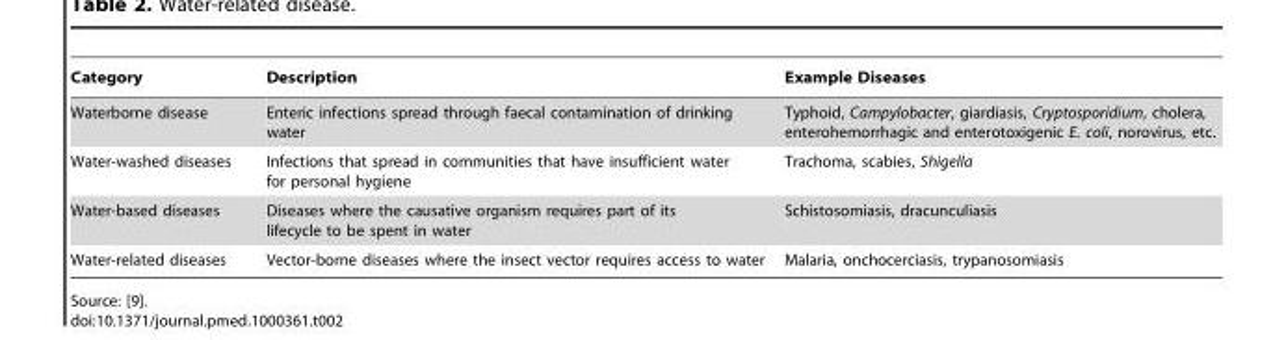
<table><thead><tr><td>Category</td><td>Description</td><td>Example Diseases</td></tr></thead><tbody><tr><td>Waterborne disease</td><td>Enteric infections spread through faecal contamination of drinking water</td><td>Typhoid, Campylobacter, giardiasis, Cryptosporidium, cholera, enterohemorrhagic and enterotoxigenic E. coli, norovirus, etc.</td></tr><tr><td>Water-washed diseases</td><td>Infections that spread in communities that have insufficient water for personal hygiene</td><td>Trachoma, scabies, Shigella</td></tr><tr><td>Water-based diseases</td><td>Diseases where the causative organism requires part of its lifecycle to be spent in water</td><td>Schistosomiasis, dracunculiasis</td></tr><tr><td>Water-related diseases</td><td>Vector-borne diseases where the insect vector requires access to water</td><td>Malaria, onchocerciasis, trypanosomiasis</td></tr></tbody></table>